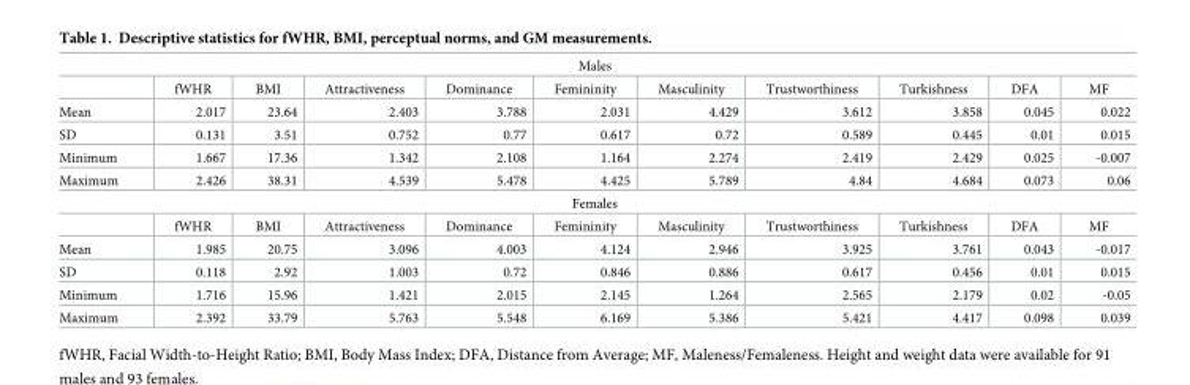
<table><tbody><tr><td colspan="11">Males</td></tr><tr><td></td><td>fWHR</td><td>BMI</td><td>Attractiveness</td><td>Dominance</td><td>Femininity</td><td>Masculinity</td><td>Trustworthiness</td><td>Turkishness</td><td>DFA</td><td>MF</td></tr><tr><td>Mean</td><td>2.017</td><td>23.64</td><td>2.403</td><td>3.788</td><td>2.031</td><td>4.429</td><td>3.612</td><td>3.858</td><td>0.045</td><td>0.022</td></tr><tr><td>SD</td><td>0.131</td><td>3.51</td><td>0.752</td><td>0.77</td><td>0.617</td><td>0.72</td><td>0.589</td><td>0.445</td><td>0.01</td><td>0.015</td></tr><tr><td>Minimum</td><td>1.667</td><td>17.36</td><td>1.342</td><td>2.108</td><td>1.164</td><td>2.274</td><td>2.419</td><td>2.429</td><td>0.025</td><td>-0.007</td></tr><tr><td>Maximum</td><td>2.426</td><td>38.31</td><td>4.539</td><td>5.478</td><td>4.425</td><td>5.789</td><td>4.84</td><td>4.684</td><td>0.073</td><td>0.06</td></tr><tr><td colspan="11">Females</td></tr><tr><td></td><td>fWHR</td><td>BMI</td><td>Attractiveness</td><td>Dominance</td><td>Femininity</td><td>Masculinity</td><td>Trustworthiness</td><td>Turkishness</td><td>DFA</td><td>MF</td></tr><tr><td>Mean</td><td>1.985</td><td>20.75</td><td>3.096</td><td>4.003</td><td>4.124</td><td>2.946</td><td>3.925</td><td>3.761</td><td>0.043</td><td>-0.017</td></tr><tr><td>SD</td><td>0.118</td><td>2.92</td><td>1.003</td><td>0.72</td><td>0.846</td><td>0.886</td><td>0.617</td><td>0.456</td><td>0.01</td><td>0.015</td></tr><tr><td>Minimum</td><td>1.716</td><td>15.96</td><td>1.421</td><td>2.015</td><td>2.145</td><td>1.264</td><td>2.565</td><td>2.179</td><td>0.02</td><td>-0.05</td></tr><tr><td>Maximum</td><td>2.392</td><td>33.79</td><td>5.763</td><td>5.548</td><td>6.169</td><td>5.386</td><td>5.421</td><td>4.417</td><td>0.098</td><td>0.039</td></tr></tbody></table>